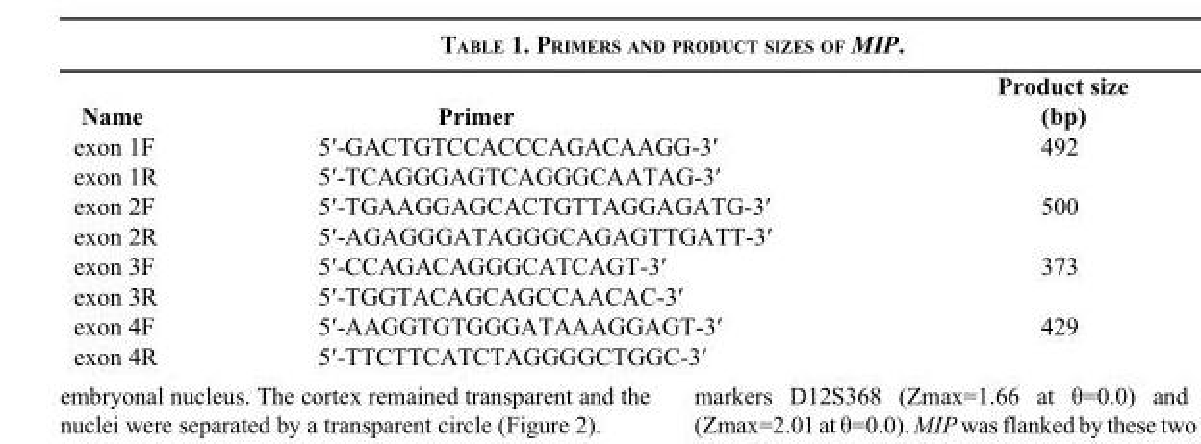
<table><thead><tr><td>Name</td><td>Primer</td><td>Product size (bp)</td></tr></thead><tbody><tr><td>exon 1F</td><td>5′-GACTGTCCACCCAGACAAGG-3′</td><td>492</td></tr><tr><td>exon 1R</td><td>5′-TCAGGGAGTCAGGGCAATAG-3′</td><td></td></tr><tr><td>exon 2F</td><td>5′-TGAAGGAGCACTGTTAGGAGATG-3′</td><td>500</td></tr><tr><td>exon 2R</td><td>5′-AGAGGGATAGGGCAGAGTTGATT-3′</td><td></td></tr><tr><td>exon 3F</td><td>5′-CCAGACAGGGCATCAGT-3′</td><td>373</td></tr><tr><td>exon 3R</td><td>5′-TGGTACAGCAGCCAACAC-3′</td><td></td></tr><tr><td>exon 4F</td><td>5′-AAGGTGTGGGATAAAGGAGT-3′</td><td>429</td></tr><tr><td>exon 4R</td><td>5′-TTCTTCATCTAGGGGCTGGC-3′</td><td></td></tr></tbody></table>